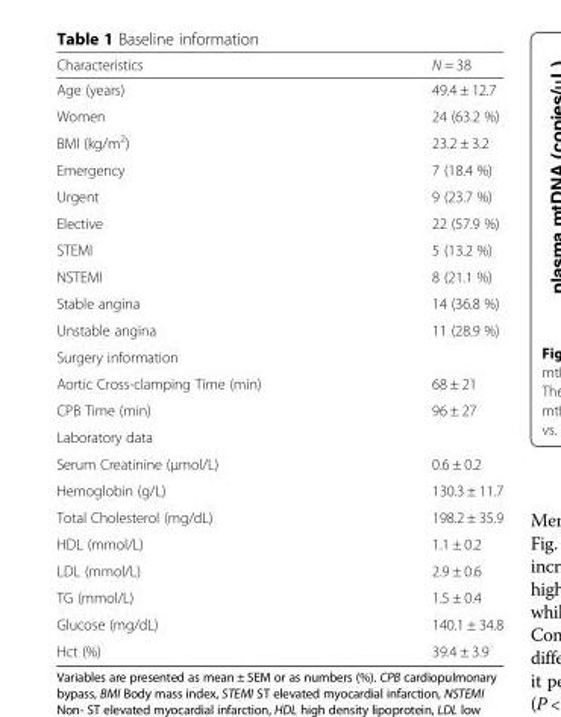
<table><thead><tr><td>Characteristics</td><td>N = 38</td></tr></thead><tbody><tr><td>Age (years)</td><td>49.4 ± 12.7</td></tr><tr><td>Women</td><td>24 (63.2 %)</td></tr><tr><td>BMI (kg/m<sup>2</sup>)</td><td>23.2 ± 3.2</td></tr><tr><td>Emergency</td><td>7 (18.4 %)</td></tr><tr><td>Urgent</td><td>9 (23.7 %)</td></tr><tr><td>Elective</td><td>22 (57.9 %)</td></tr><tr><td>STEMI</td><td>5 (13.2 %)</td></tr><tr><td>NSTEMI</td><td>8 (21.1 %)</td></tr><tr><td>Stable angina</td><td>14 (36.8 %)</td></tr><tr><td>Unstable angina</td><td>11 (28.9 %)</td></tr><tr><td colspan="2">Surgery information</td></tr><tr><td>Aortic Cross-clamping Time (min)</td><td>68 ± 21</td></tr><tr><td>CPB Time (min)</td><td>96 ± 27</td></tr><tr><td colspan="2">Laboratory data</td></tr><tr><td>Serum Creatinine (μmol/L)</td><td>0.6 ± 0.2</td></tr><tr><td>Hemoglobin (g/L)</td><td>130.3 ± 11.7</td></tr><tr><td>Total Cholesterol (mg/dL)</td><td>198.2 ± 35.9</td></tr><tr><td>HDL (mmol/L)</td><td>1.1 ± 0.2</td></tr><tr><td>LDL (mmol/L)</td><td>2.9 ± 0.6</td></tr><tr><td>TG (mmol/L)</td><td>1.5 ± 0.4</td></tr><tr><td>Glucose (mg/dL)</td><td>140.1 ± 34.8</td></tr><tr><td>Hct (%)</td><td>39.4 ± 3.9</td></tr></tbody></table>